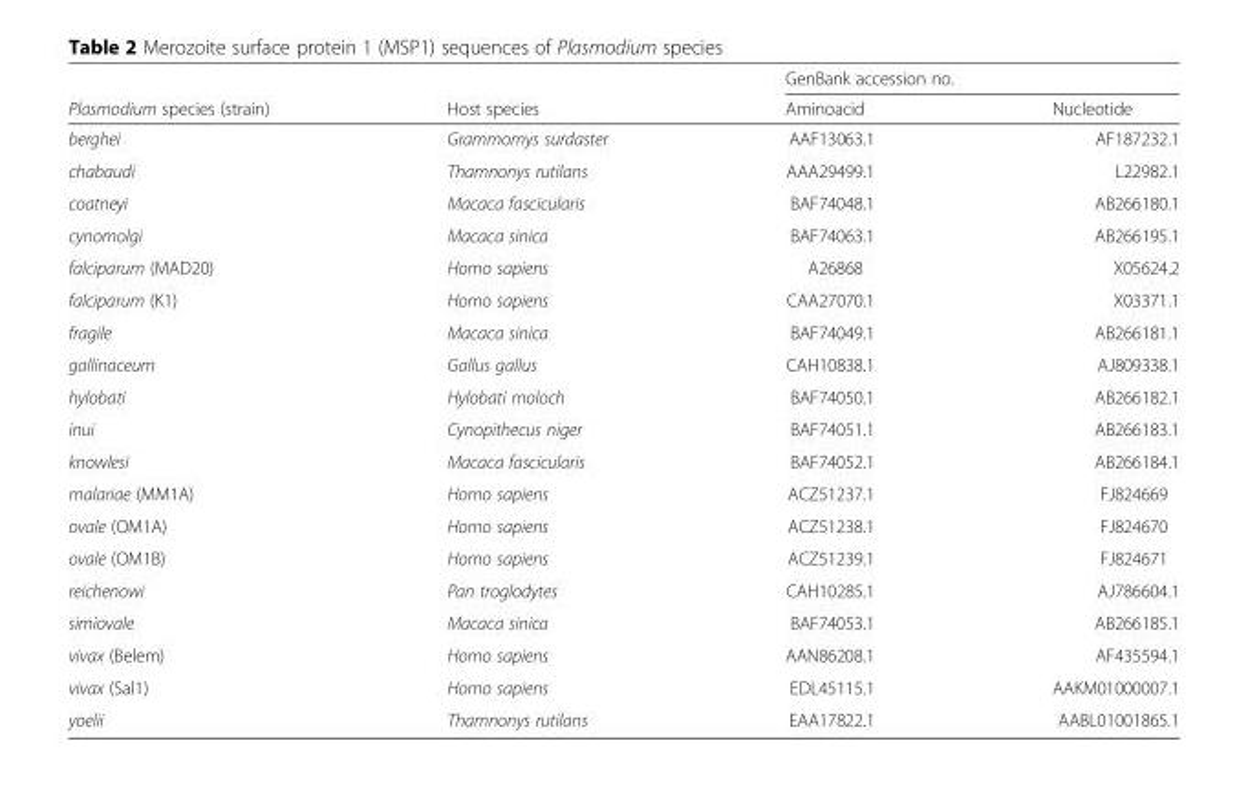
<table><thead><tr><td rowspan="2">Plasmodium species (strain)</td><td rowspan="2">Host species</td><td colspan="2">GenBank accession no.</td></tr><tr><td>Aminoacid</td><td>Nucleotide</td></tr></thead><tbody><tr><td>berghei</td><td>Grammomys surdaster</td><td>AAF13063.1</td><td>AF187232.1</td></tr><tr><td>chabaudi</td><td>Thamnonys rutilans</td><td>AAA29499.1</td><td>L22982.1</td></tr><tr><td>coatneyi</td><td>Macaca fascicularis</td><td>BAF74048.1</td><td>AB266180.1</td></tr><tr><td>cynomolgi</td><td>Macaca sinica</td><td>BAF74063.1</td><td>AB266195.1</td></tr><tr><td>falciparum (MAD20)</td><td>Homo sapiens</td><td>A26868</td><td>X05624.2</td></tr><tr><td>falciparum (K1)</td><td>Homo sapiens</td><td>CAA27070.1</td><td>X03371.1</td></tr><tr><td>fragile</td><td>Macaca sinica</td><td>BAF74049.1</td><td>AB266181.1</td></tr><tr><td>gallinaceum</td><td>Gallus gallus</td><td>CAH10838.1</td><td>AJ809338.1</td></tr><tr><td>hylobati</td><td>Hylobati moloch</td><td>BAF74050.1</td><td>AB266182.1</td></tr><tr><td>inui</td><td>Cynopithecus niger</td><td>BAF74051.1</td><td>AB266183.1</td></tr><tr><td>knowlesi</td><td>Macaca fascicularis</td><td>BAF74052.1</td><td>AB266184.1</td></tr><tr><td>malariae (MM1A)</td><td>Homo sapiens</td><td>ACZ51237.1</td><td>FJ824669</td></tr><tr><td>ovale (OM1A)</td><td>Homo sapiens</td><td>ACZ51238.1</td><td>FJ824670</td></tr><tr><td>ovale (OM1B)</td><td>Homo sapiens</td><td>ACZ51239.1</td><td>FJ824671</td></tr><tr><td>reichenowi</td><td>Pan troglodytes</td><td>CAH10285.1</td><td>AJ786604.1</td></tr><tr><td>simiovale</td><td>Macaca sinica</td><td>BAF74053.1</td><td>AB266185.1</td></tr><tr><td>vivax (Belem)</td><td>Homo sapiens</td><td>AAN86208.1</td><td>AF435594.1</td></tr><tr><td>vivax (Sal1)</td><td>Homo sapiens</td><td>EDL45115.1</td><td>AAKM01000007.1</td></tr><tr><td>yoelii</td><td>Thamnonys rutilans</td><td>EAA17822.1</td><td>AABL01001865.1</td></tr></tbody></table>